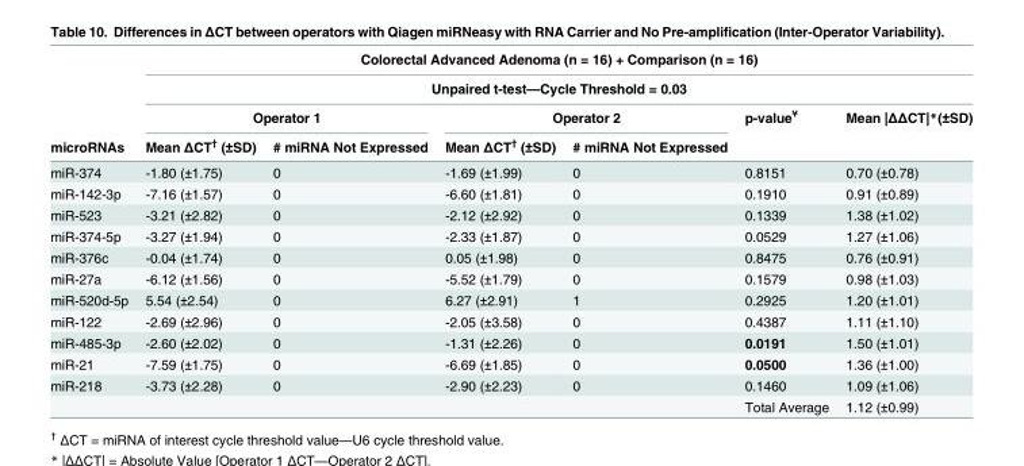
<table><thead><tr><td rowspan="4">microRNAs</td><td rowspan="2" colspan="6">Colorectal Advanced Adenoma (n = 16) + Comparison (n = 16) Unpaired t-test—Cycle Threshold = 0.03</td></tr><tr></tr><tr><td colspan="2">Operator 1</td><td colspan="2">Operator 2</td><td rowspan="2">p-value<sup>¥</sup></td><td rowspan="2">Mean |ΔΔCT|*(±SD)</td></tr><tr><td>Mean ΔCT<sup>†</sup> (±SD)</td><td># miRNA Not Expressed</td><td>Mean ΔCT<sup>†</sup> (±SD)</td><td># miRNA Not Expressed</td></tr></thead><tbody><tr><td>miR-374</td><td>-1.80 (±1.75)</td><td>0</td><td>-1.69 (±1.99)</td><td>0</td><td>0.8151</td><td>0.70 (±0.78)</td></tr><tr><td>miR-142-3p</td><td>-7.16 (±1.57)</td><td>0</td><td>-6.60 (±1.81)</td><td>0</td><td>0.1910</td><td>0.91 (±0.89)</td></tr><tr><td>miR-523</td><td>-3.21 (±2.82)</td><td>0</td><td>-2.12 (±2.92)</td><td>0</td><td>0.1339</td><td>1.38 (±1.02)</td></tr><tr><td>miR-374-5p</td><td>-3.27 (±1.94)</td><td>0</td><td>-2.33 (±1.87)</td><td>0</td><td>0.0529</td><td>1.27 (±1.06)</td></tr><tr><td>miR-376c</td><td>-0.04 (±1.74)</td><td>0</td><td>0.05 (±1.98)</td><td>0</td><td>0.8475</td><td>0.76 (±0.91)</td></tr><tr><td>miR-27a</td><td>-6.12 (±1.56)</td><td>0</td><td>-5.52 (±1.79)</td><td>0</td><td>0.1579</td><td>0.98 (±1.03)</td></tr><tr><td>miR-520d-5p</td><td>5.54 (±2.54)</td><td>0</td><td>6.27 (±2.91)</td><td>1</td><td>0.2925</td><td>1.20 (±1.01)</td></tr><tr><td>miR-122</td><td>-2.69 (±2.96)</td><td>0</td><td>-2.05 (±3.58)</td><td>0</td><td>0.4387</td><td>1.11 (±1.10)</td></tr><tr><td>miR-485-3p</td><td>-2.60 (±2.02)</td><td>0</td><td>-1.31 (±2.26)</td><td>0</td><td>0.0191</td><td>1.50 (±1.01)</td></tr><tr><td>miR-21</td><td>-7.59 (±1.75)</td><td>0</td><td>-6.69 (±1.85)</td><td>0</td><td>0.0500</td><td>1.36 (±1.00)</td></tr><tr><td>miR-218</td><td>-3.73 (±2.28)</td><td>0</td><td>-2.90 (±2.23)</td><td>0</td><td>0.1460</td><td>1.09 (±1.06)</td></tr><tr><td colspan="5"></td><td>Total Average</td><td>1.12 (±0.99)</td></tr></tbody></table>